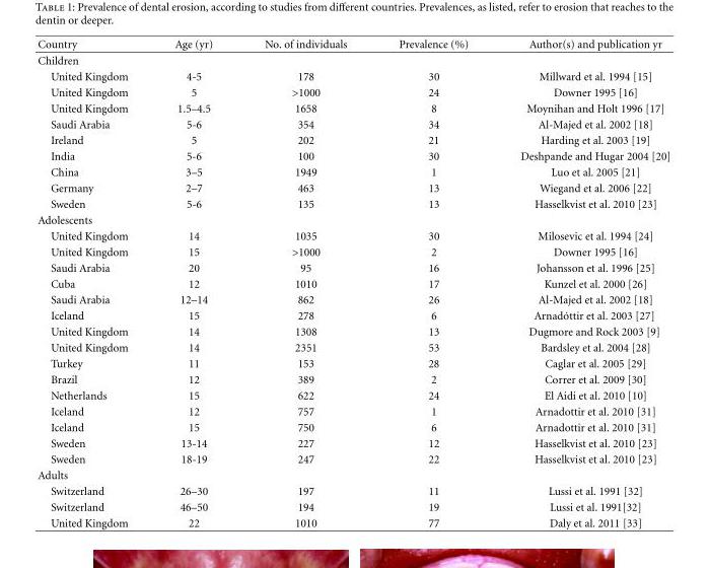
<table><thead><tr><td>Country</td><td>Age (yr)</td><td>No. of individuals</td><td>Prevalence (%)</td><td>Author(s) and publication yr</td></tr></thead><tbody><tr><td colspan="5">Children</td></tr><tr><td>United Kingdom</td><td>4-5</td><td>178</td><td>30</td><td>Millward et al. 1994 [15]</td></tr><tr><td>United Kingdom</td><td>5</td><td>&gt;1000</td><td>24</td><td>Downer 1995 [16]</td></tr><tr><td>United Kingdom</td><td>1.5–4.5</td><td>1658</td><td>8</td><td>Moynihan and Holt 1996 [17]</td></tr><tr><td>Saudi Arabia</td><td>5-6</td><td>354</td><td>34</td><td>Al-Majed et al. 2002 [18]</td></tr><tr><td>Ireland</td><td>5</td><td>202</td><td>21</td><td>Harding et al. 2003 [19]</td></tr><tr><td>India</td><td>5-6</td><td>100</td><td>30</td><td>Deshpande and Hugar 2004 [20]</td></tr><tr><td>China</td><td>3–5</td><td>1949</td><td>1</td><td>Luo et al. 2005 [21]</td></tr><tr><td>Germany</td><td>2–7</td><td>463</td><td>13</td><td>Wiegand et al. 2006 [22]</td></tr><tr><td>Sweden</td><td>5-6</td><td>135</td><td>13</td><td>Hasselkvist et al. 2010 [23]</td></tr><tr><td colspan="5">Adolescents</td></tr><tr><td>United Kingdom</td><td>14</td><td>1035</td><td>30</td><td>Milosevic et al. 1994 [24]</td></tr><tr><td>United Kingdom</td><td>15</td><td>&gt;1000</td><td>2</td><td>Downer 1995 [16]</td></tr><tr><td>Saudi Arabia</td><td>20</td><td>95</td><td>16</td><td>Johansson et al. 1996 [25]</td></tr><tr><td>Cuba</td><td>12</td><td>1010</td><td>17</td><td>Kunzel et al. 2000 [26]</td></tr><tr><td>Saudi Arabia</td><td>12–14</td><td>862</td><td>26</td><td>Al-Majed et al. 2002 [18]</td></tr><tr><td>Iceland</td><td>15</td><td>278</td><td>6</td><td>Arnad´ottir et al. 2003 [27]</td></tr><tr><td>United Kingdom</td><td>14</td><td>1308</td><td>13</td><td>Dugmore and Rock 2003 [9]</td></tr><tr><td>United Kingdom</td><td>14</td><td>2351</td><td>53</td><td>Bardsley et al. 2004 [28]</td></tr><tr><td>Turkey</td><td>11</td><td>153</td><td>28</td><td>Caglar et al. 2005 [29]</td></tr><tr><td>Brazil</td><td>12</td><td>389</td><td>2</td><td>Correr et al. 2009 [30]</td></tr><tr><td>Netherlands</td><td>15</td><td>622</td><td>24</td><td>El Aidi et al. 2010 [10]</td></tr><tr><td>Iceland</td><td>12</td><td>757</td><td>1</td><td>Arnadottir et al. 2010 [31]</td></tr><tr><td>Iceland</td><td>15</td><td>750</td><td>6</td><td>Arnadottir et al. 2010 [31]</td></tr><tr><td>Sweden</td><td>13-14</td><td>227</td><td>12</td><td>Hasselkvist et al. 2010 [23]</td></tr><tr><td>Sweden</td><td>18-19</td><td>247</td><td>22</td><td>Hasselkvist et al. 2010 [23]</td></tr><tr><td colspan="5">Adults</td></tr><tr><td>Switzerland</td><td>26–30</td><td>197</td><td>11</td><td>Lussi et al. 1991 [32]</td></tr><tr><td>Switzerland</td><td>46–50</td><td>194</td><td>19</td><td>Lussi et al. 1991[32]</td></tr><tr><td>United Kingdom</td><td>22</td><td>1010</td><td>77</td><td>Daly et al. 2011 [33]</td></tr></tbody></table>